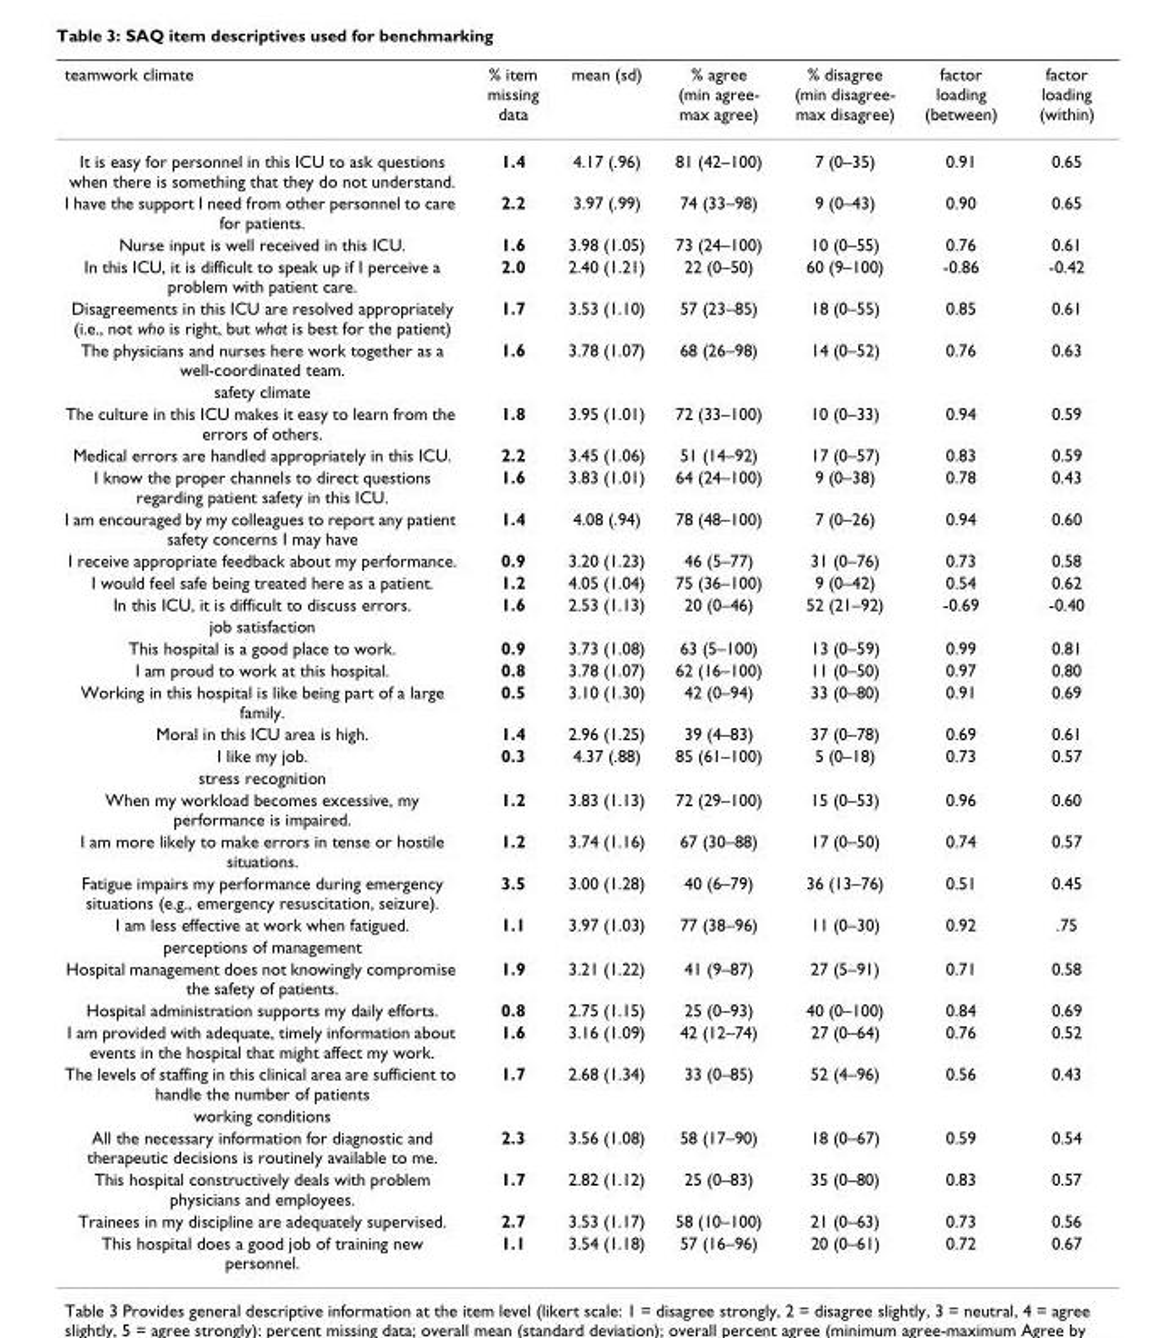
<table><thead><tr><td>teamwork climate</td><td>% item missing data</td><td>mean (sd)</td><td>% agree (min agree- max agree)</td><td>% disagree (min disagree- max disagree)</td><td>factor loading (between)</td><td>factor loading (within)</td></tr></thead><tbody><tr><td>It is easy for personnel in this ICU to ask questions when there is something that they do not understand.</td><td>1.4</td><td>4.17 (.96)</td><td>81 (42–100)</td><td>7 (0–35)</td><td>0.91</td><td>0.65</td></tr><tr><td>I have the support I need from other personnel to care for patients.</td><td>2.2</td><td>3.97 (.99)</td><td>74 (33–98)</td><td>9 (0–43)</td><td>0.90</td><td>0.65</td></tr><tr><td>Nurse input is well received in this ICU.</td><td>1.6</td><td>3.98 (1.05)</td><td>73 (24–100)</td><td>10 (0–55)</td><td>0.76</td><td>0.61</td></tr><tr><td>In this ICU, it is difficult to speak up if I perceive a problem with patient care.</td><td>2.0</td><td>2.40 (1.21)</td><td>22 (0–50)</td><td>60 (9–100)</td><td>-0.86</td><td>-0.42</td></tr><tr><td>Disagreements in this ICU are resolved appropriately (i.e., not who is right, but what is best for the patient)</td><td>1.7</td><td>3.53 (1.10)</td><td>57 (23–85)</td><td>18 (0–55)</td><td>0.85</td><td>0.61</td></tr><tr><td>The physicians and nurses here work together as a well-coordinated team.</td><td>1.6</td><td>3.78 (1.07)</td><td>68 (26–98)</td><td>14 (0–52)</td><td>0.76</td><td>0.63</td></tr><tr><td colspan="7">safety climate</td></tr><tr><td>The culture in this ICU makes it easy to learn from the errors of others.</td><td>1.8</td><td>3.95 (1.01)</td><td>72 (33–100)</td><td>10 (0–33)</td><td>0.94</td><td>0.59</td></tr><tr><td>Medical errors are handled appropriately in this ICU.</td><td>2.2</td><td>3.45 (1.06)</td><td>51 (14–92)</td><td>17 (0–57)</td><td>0.83</td><td>0.59</td></tr><tr><td>I know the proper channels to direct questions regarding patient safety in this ICU.</td><td>1.6</td><td>3.83 (1.01)</td><td>64 (24–100)</td><td>9 (0–38)</td><td>0.78</td><td>0.43</td></tr><tr><td>I am encouraged by my colleagues to report any patient safety concerns I may have</td><td>1.4</td><td>4.08 (.94)</td><td>78 (48–100)</td><td>7 (0–26)</td><td>0.94</td><td>0.60</td></tr><tr><td>I receive appropriate feedback about my performance.</td><td>0.9</td><td>3.20 (1.23)</td><td>46 (5–77)</td><td>31 (0–76)</td><td>0.73</td><td>0.58</td></tr><tr><td>I would feel safe being treated here as a patient.</td><td>1.2</td><td>4.05 (1.04)</td><td>75 (36–100)</td><td>9 (0–42)</td><td>0.54</td><td>0.62</td></tr><tr><td>In this ICU, it is difficult to discuss errors.</td><td>1.6</td><td>2.53 (1.13)</td><td>20 (0–46)</td><td>52 (21–92)</td><td>-0.69</td><td>-0.40</td></tr><tr><td colspan="7">job satisfaction</td></tr><tr><td>This hospital is a good place to work.</td><td>0.9</td><td>3.73 (1.08)</td><td>63 (5–100)</td><td>13 (0–59)</td><td>0.99</td><td>0.81</td></tr><tr><td>I am proud to work at this hospital.</td><td>0.8</td><td>3.78 (1.07)</td><td>62 (16–100)</td><td>11 (0–50)</td><td>0.97</td><td>0.80</td></tr><tr><td>Working in this hospital is like being part of a large family.</td><td>0.5</td><td>3.10 (1.30)</td><td>42 (0–94)</td><td>33 (0–80)</td><td>0.91</td><td>0.69</td></tr><tr><td>Moral in this ICU area is high.</td><td>1.4</td><td>2.96 (1.25)</td><td>39 (4–83)</td><td>37 (0–78)</td><td>0.69</td><td>0.61</td></tr><tr><td>I like my job.</td><td>0.3</td><td>4.37 (.88)</td><td>85 (61–100)</td><td>5 (0–18)</td><td>0.73</td><td>0.57</td></tr><tr><td colspan="7">stress recognition</td></tr><tr><td>When my workload becomes excessive, my performance is impaired.</td><td>1.2</td><td>3.83 (1.13)</td><td>72 (29–100)</td><td>15 (0–53)</td><td>0.96</td><td>0.60</td></tr><tr><td>I am more likely to make errors in tense or hostile situations.</td><td>1.2</td><td>3.74 (1.16)</td><td>67 (30–88)</td><td>17 (0–50)</td><td>0.74</td><td>0.57</td></tr><tr><td>Fatigue impairs my performance during emergency situations (e.g., emergency resuscitation, seizure).</td><td>3.5</td><td>3.00 (1.28)</td><td>40 (6–79)</td><td>36 (13–76)</td><td>0.51</td><td>0.45</td></tr><tr><td>I am less effective at work when fatigued.</td><td>1.1</td><td>3.97 (1.03)</td><td>77 (38–96)</td><td>11 (0–30)</td><td>0.92</td><td>.75</td></tr><tr><td colspan="7">perceptions of management</td></tr><tr><td>Hospital management does not knowingly compromise the safety of patients.</td><td>1.9</td><td>3.21 (1.22)</td><td>41 (9–87)</td><td>27 (5–91)</td><td>0.71</td><td>0.58</td></tr><tr><td>Hospital administration supports my daily efforts.</td><td>0.8</td><td>2.75 (1.15)</td><td>25 (0–93)</td><td>40 (0–100)</td><td>0.84</td><td>0.69</td></tr><tr><td>I am provided with adequate, timely information about events in the hospital that might affect my work.</td><td>1.6</td><td>3.16 (1.09)</td><td>42 (12–74)</td><td>27 (0–64)</td><td>0.76</td><td>0.52</td></tr><tr><td>The levels of staffing in this clinical area are sufficient to handle the number of patients</td><td>1.7</td><td>2.68 (1.34)</td><td>33 (0–85)</td><td>52 (4–96)</td><td>0.56</td><td>0.43</td></tr><tr><td colspan="7">working conditions</td></tr><tr><td>All the necessary information for diagnostic and therapeutic decisions is routinely available to me.</td><td>2.3</td><td>3.56 (1.08)</td><td>58 (17–90)</td><td>18 (0–67)</td><td>0.59</td><td>0.54</td></tr><tr><td>This hospital constructively deals with problem physicians and employees.</td><td>1.7</td><td>2.82 (1.12)</td><td>25 (0–83)</td><td>35 (0–80)</td><td>0.83</td><td>0.57</td></tr><tr><td>Trainees in my discipline are adequately supervised.</td><td>2.7</td><td>3.53 (1.17)</td><td>58 (10–100)</td><td>21 (0–63)</td><td>0.73</td><td>0.56</td></tr><tr><td>This hospital does a good job of training new personnel.</td><td>1.1</td><td>3.54 (1.18)</td><td>57 (16–96)</td><td>20 (0–61)</td><td>0.72</td><td>0.67</td></tr></tbody></table>